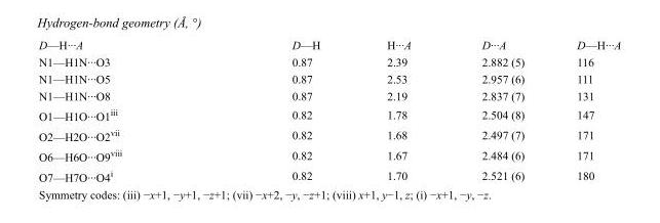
<table><tbody><tr><td>D—H···A</td><td>D—H</td><td>H···A</td><td>D···A</td><td>D—H···A</td></tr><tr><td>N1—H1N···O3</td><td>0.87</td><td>2.39</td><td>2.882 (5)</td><td>116</td></tr><tr><td>N1—H1N···O5</td><td>0.87</td><td>2.53</td><td>2.957 (6)</td><td>111</td></tr><tr><td>N1—H1N···O8</td><td>0.87</td><td>2.19</td><td>2.837 (7)</td><td>131</td></tr><tr><td>O1—H1O···O1<sup>iii</sup></td><td>0.82</td><td>1.78</td><td>2.504 (8)</td><td>147</td></tr><tr><td>O2—H2O···O2<sup>vii</sup></td><td>0.82</td><td>1.68</td><td>2.497 (7)</td><td>171</td></tr><tr><td>O6—H6O···O9<sup>viii</sup></td><td>0.82</td><td>1.67</td><td>2.484 (6)</td><td>171</td></tr><tr><td>O7—H7O···O4<sup>i</sup></td><td>0.82</td><td>1.70</td><td>2.521 (6)</td><td>180</td></tr></tbody></table>